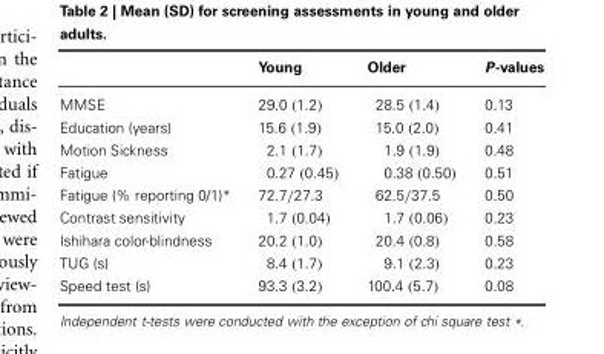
<table><thead><tr><td></td><td>Young</td><td>Older</td><td>P-values</td></tr></thead><tbody><tr><td>MMSE</td><td>29.0 (1.2)</td><td>28.5 (1.4)</td><td>0.13</td></tr><tr><td>Education (years)</td><td>15.6 (1.9)</td><td>15.0 (2.0)</td><td>0.41</td></tr><tr><td>Motion Sickness</td><td>2.1 (1.7)</td><td>1.9 (1.9)</td><td>0.48</td></tr><tr><td>Fatigue</td><td>0.27 (0.45)</td><td>0.38 (0.50)</td><td>0.51</td></tr><tr><td>Fatigue (% reporting 0/1)*</td><td>72.7/27.3</td><td>62.5/37.5</td><td>0.50</td></tr><tr><td>Contrast sensitivity</td><td>1.7 (0.04)</td><td>1.7 (0.06)</td><td>0.23</td></tr><tr><td>Ishihara color-blindness</td><td>20.2 (1.0)</td><td>20.4 (0.8)</td><td>0.58</td></tr><tr><td>TUG (s)</td><td>8.4 (1.7)</td><td>9.1 (2.3)</td><td>0.23</td></tr><tr><td>Speed test (s)</td><td>93.3 (3.2)</td><td>100.4 (5.7)</td><td>0.08</td></tr></tbody></table>